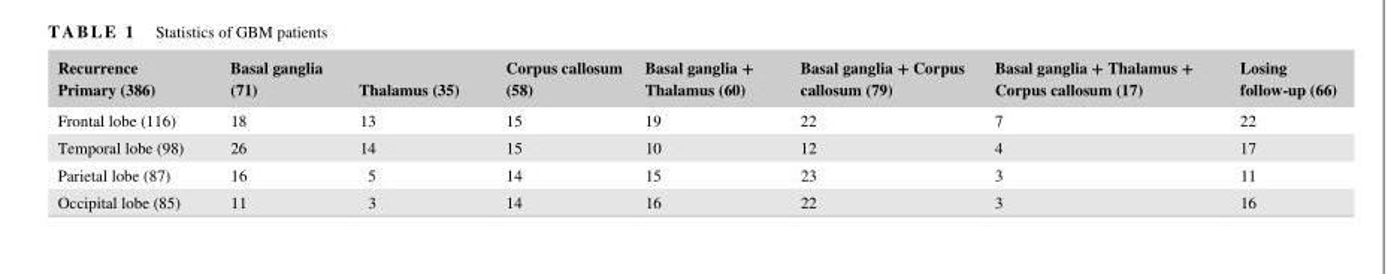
<table><thead><tr><td>Recurrence Primary (386)</td><td>Basal ganglia (71)</td><td>Thalamus (35)</td><td>Corpus callosum (58)</td><td>Basal ganglia + Thalamus (60)</td><td>Basal ganglia + Corpus callosum (79)</td><td>Basal ganglia + Thalamus + Corpus callosum (17)</td><td>Losing follow- up (66)</td></tr></thead><tbody><tr><td>Frontal lobe (116)</td><td>18</td><td>13</td><td>15</td><td>19</td><td>22</td><td>7</td><td>22</td></tr><tr><td>Temporal lobe (98)</td><td>26</td><td>14</td><td>15</td><td>10</td><td>12</td><td>4</td><td>17</td></tr><tr><td>Parietal lobe (87)</td><td>16</td><td>5</td><td>14</td><td>15</td><td>23</td><td>3</td><td>11</td></tr><tr><td>Occipital lobe (85)</td><td>11</td><td>3</td><td>14</td><td>16</td><td>22</td><td>3</td><td>16</td></tr></tbody></table>